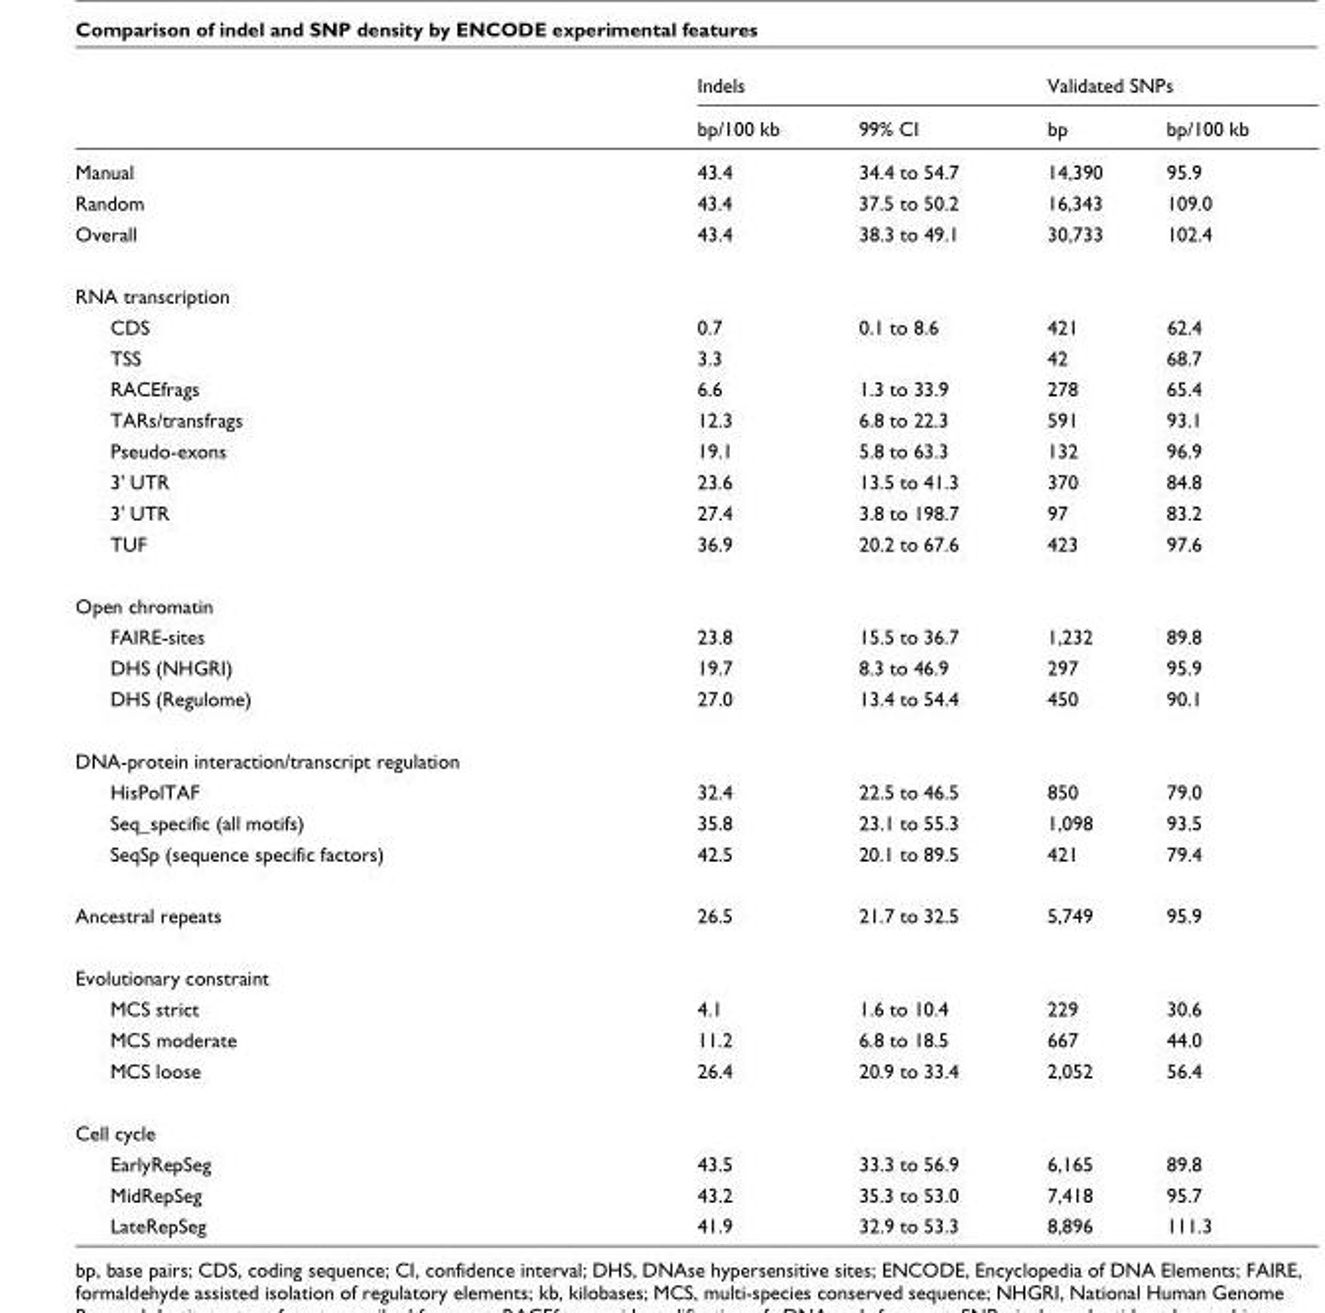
<table><thead><tr><td rowspan="2"></td><td colspan="2">Indels</td><td colspan="2">Validated SNPs</td></tr><tr><td>bp/100 kb</td><td>99% CI</td><td>bp</td><td>bp/100 kb</td></tr></thead><tbody><tr><td>Manual</td><td>43.4</td><td>34.4 to 54.7</td><td>14,390</td><td>95.9</td></tr><tr><td>Random</td><td>43.4</td><td>37.5 to 50.2</td><td>16,343</td><td>109.0</td></tr><tr><td>Overall</td><td>43.4</td><td>38.3 to 49.1</td><td>30,733</td><td>102.4</td></tr><tr><td colspan="5">RNA transcription</td></tr><tr><td>CDS</td><td>0.7</td><td>0.1 to 8.6</td><td>421</td><td>62.4</td></tr><tr><td>TSS</td><td>3.3</td><td></td><td>42</td><td>68.7</td></tr><tr><td>RACEfrags</td><td>6.6</td><td>1.3 to 33.9</td><td>278</td><td>65.4</td></tr><tr><td>TARs/transfrags</td><td>12.3</td><td>6.8 to 22.3</td><td>591</td><td>93.1</td></tr><tr><td>Pseudo-exons</td><td>19.1</td><td>5.8 to 63.3</td><td>132</td><td>96.9</td></tr><tr><td>3&#x27; UTR</td><td>23.6</td><td>13.5 to 41.3</td><td>370</td><td>84.8</td></tr><tr><td>3&#x27; UTR</td><td>27.4</td><td>3.8 to 198.7</td><td>97</td><td>83.2</td></tr><tr><td>TUF</td><td>36.9</td><td>20.2 to 67.6</td><td>423</td><td>97.6</td></tr><tr><td colspan="5">Open chromatin</td></tr><tr><td>FAIRE-sites</td><td>23.8</td><td>15.5 to 36.7</td><td>1,232</td><td>89.8</td></tr><tr><td>DHS (NHGRI)</td><td>19.7</td><td>8.3 to 46.9</td><td>297</td><td>95.9</td></tr><tr><td>DHS (Regulome)</td><td>27.0</td><td>13.4 to 54.4</td><td>450</td><td>90.1</td></tr><tr><td colspan="5">DNA-protein interaction/transcript regulation</td></tr><tr><td>HisPolTAF</td><td>32.4</td><td>22.5 to 46.5</td><td>850</td><td>79.0</td></tr><tr><td>Seq_specific (all motifs)</td><td>35.8</td><td>23.1 to 55.3</td><td>1,098</td><td>93.5</td></tr><tr><td>SeqSp (sequence specific factors)</td><td>42.5</td><td>20.1 to 89.5</td><td>421</td><td>79.4</td></tr><tr><td>Ancestral repeats</td><td>26.5</td><td>21.7 to 32.5</td><td>5,749</td><td>95.9</td></tr><tr><td colspan="5">Evolutionary constraint</td></tr><tr><td>MCS strict</td><td>4.1</td><td>1.6 to 10.4</td><td>229</td><td>30.6</td></tr><tr><td>MCS moderate</td><td>11.2</td><td>6.8 to 18.5</td><td>667</td><td>44.0</td></tr><tr><td>MCS loose</td><td>26.4</td><td>20.9 to 33.4</td><td>2,052</td><td>56.4</td></tr><tr><td colspan="5">Cell cycle</td></tr><tr><td>EarlyRepSeg</td><td>43.5</td><td>33.3 to 56.9</td><td>6,165</td><td>89.8</td></tr><tr><td>MidRepSeg</td><td>43.2</td><td>35.3 to 53.0</td><td>7,418</td><td>95.7</td></tr><tr><td>LateRepSeg</td><td>41.9</td><td>32.9 to 53.3</td><td>8,896</td><td>111.3</td></tr></tbody></table>